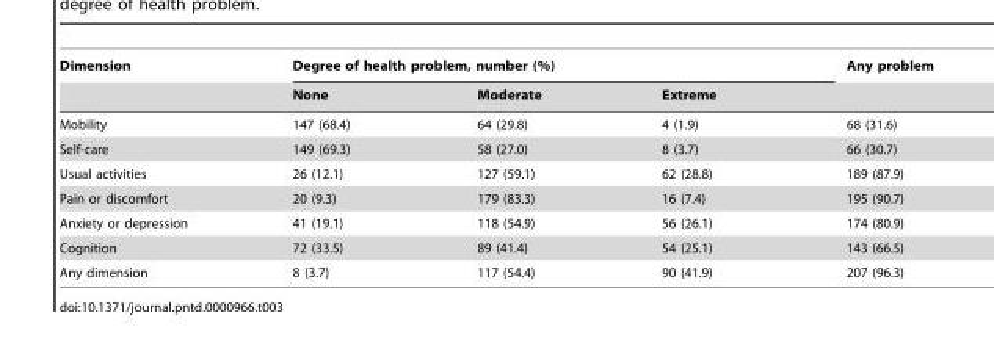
<table><thead><tr><td rowspan="2">Dimension</td><td colspan="3">Degree of health problem, number (%)</td><td rowspan="2">Any problem</td></tr><tr><td>None</td><td>Moderate</td><td>Extreme</td></tr></thead><tbody><tr><td>Mobility</td><td>147 (68.4)</td><td>64 (29.8)</td><td>4 (1.9)</td><td>68 (31.6)</td></tr><tr><td>Self-care</td><td>149 (69.3)</td><td>58 (27.0)</td><td>8 (3.7)</td><td>66 (30.7)</td></tr><tr><td>Usual activities</td><td>26 (12.1)</td><td>127 (59.1)</td><td>62 (28.8)</td><td>189 (87.9)</td></tr><tr><td>Pain or discomfort</td><td>20 (9.3)</td><td>179 (83.3)</td><td>16 (7.4)</td><td>195 (90.7)</td></tr><tr><td>Anxiety or depression</td><td>41 (19.1)</td><td>118 (54.9)</td><td>56 (26.1)</td><td>174 (80.9)</td></tr><tr><td>Cognition</td><td>72 (33.5)</td><td>89 (41.4)</td><td>54 (25.1)</td><td>143 (66.5)</td></tr><tr><td>Any dimension</td><td>8 (3.7)</td><td>117 (54.4)</td><td>90 (41.9)</td><td>207 (96.3)</td></tr></tbody></table>